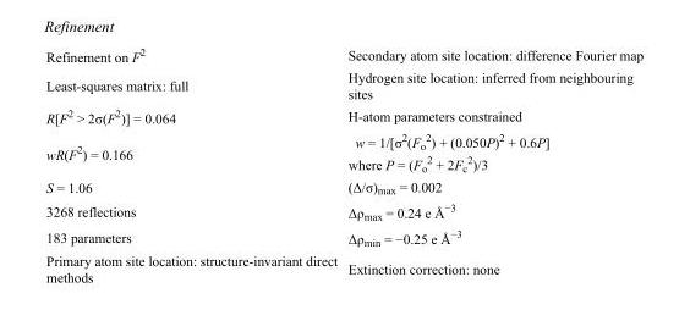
<table><tbody><tr><td>Refinement on F<sup>2</sup></td><td>Secondary atom site location: difference Fourier map</td></tr><tr><td>Least-squares matrix: full</td><td>Hydrogen site location: inferred from neighbouring sites</td></tr><tr><td>R[F<sup>2</sup> &gt; 2σ(F<sup>2</sup>)] = 0.064</td><td>H-atom parameters constrained</td></tr><tr><td>wR(F<sup>2</sup>) = 0.166</td><td>w = 1/[σ<sup>2</sup>(F<sub>o</sub> <sup>2</sup>) + (0.050P)<sup>2</sup> + 0.6P] where P = (F<sub>o</sub> <sup>2</sup> + 2F<sub>c</sub> <sup>2</sup>)/3</td></tr><tr><td>S = 1.06</td><td>(Δ/σ)<sub>max</sub> = 0.002</td></tr><tr><td>3268 reflections</td><td>Δρ<sub>max</sub> = 0.24 e Å<sup>−3</sup></td></tr><tr><td>183 parameters</td><td>Δρ<sub>min</sub> = −0.25 e Å<sup>−3</sup></td></tr><tr><td>Primary atom site location: structure-invariant direct methods</td><td>Extinction correction: none</td></tr></tbody></table>